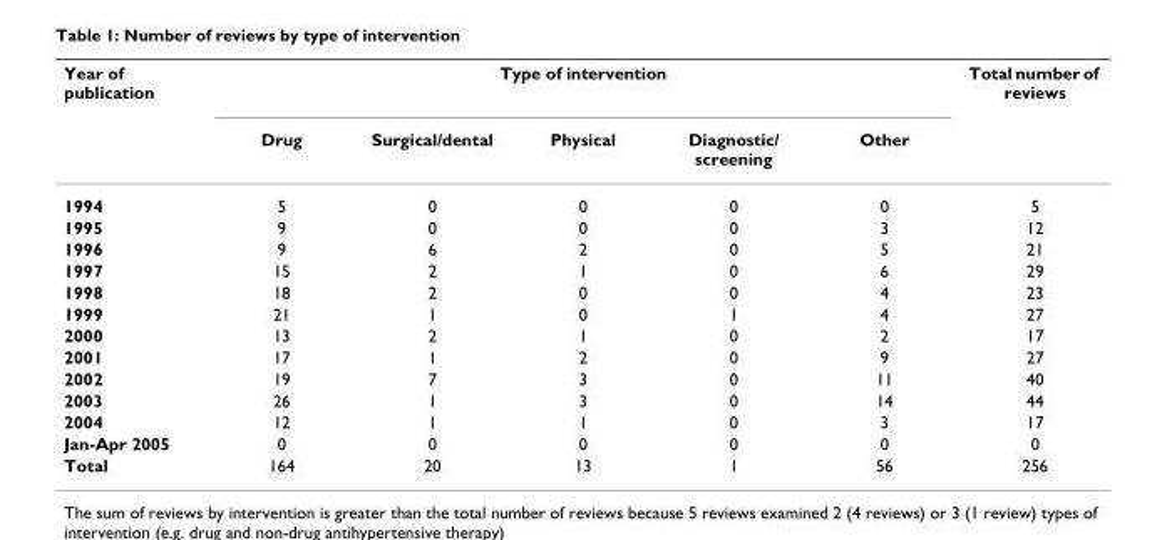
<table><thead><tr><td rowspan="2">Year of publication</td><td colspan="5">Type of intervention</td><td rowspan="2">Total number of reviews</td></tr><tr><td>Drug</td><td>Surgical/dental</td><td>Physical</td><td>Diagnostic/ screening</td><td>Other</td></tr></thead><tbody><tr><td>1994</td><td>5</td><td>0</td><td>0</td><td>0</td><td>0</td><td>5</td></tr><tr><td>1995</td><td>9</td><td>0</td><td>0</td><td>0</td><td>3</td><td>12</td></tr><tr><td>1996</td><td>9</td><td>6</td><td>2</td><td>0</td><td>5</td><td>21</td></tr><tr><td>1997</td><td>15</td><td>2</td><td>1</td><td>0</td><td>6</td><td>29</td></tr><tr><td>1998</td><td>18</td><td>2</td><td>0</td><td>0</td><td>4</td><td>23</td></tr><tr><td>1999</td><td>21</td><td>1</td><td>0</td><td>1</td><td>4</td><td>27</td></tr><tr><td>2000</td><td>13</td><td>2</td><td>1</td><td>0</td><td>2</td><td>17</td></tr><tr><td>2001</td><td>17</td><td>1</td><td>2</td><td>0</td><td>9</td><td>27</td></tr><tr><td>2002</td><td>19</td><td>7</td><td>3</td><td>0</td><td>11</td><td>40</td></tr><tr><td>2003</td><td>26</td><td>1</td><td>3</td><td>0</td><td>14</td><td>44</td></tr><tr><td>2004</td><td>12</td><td>1</td><td>1</td><td>0</td><td>3</td><td>17</td></tr><tr><td>Jan-Apr 2005</td><td>0</td><td>0</td><td>0</td><td>0</td><td>0</td><td>0</td></tr><tr><td>Total</td><td>164</td><td>20</td><td>13</td><td>1</td><td>56</td><td>256</td></tr></tbody></table>